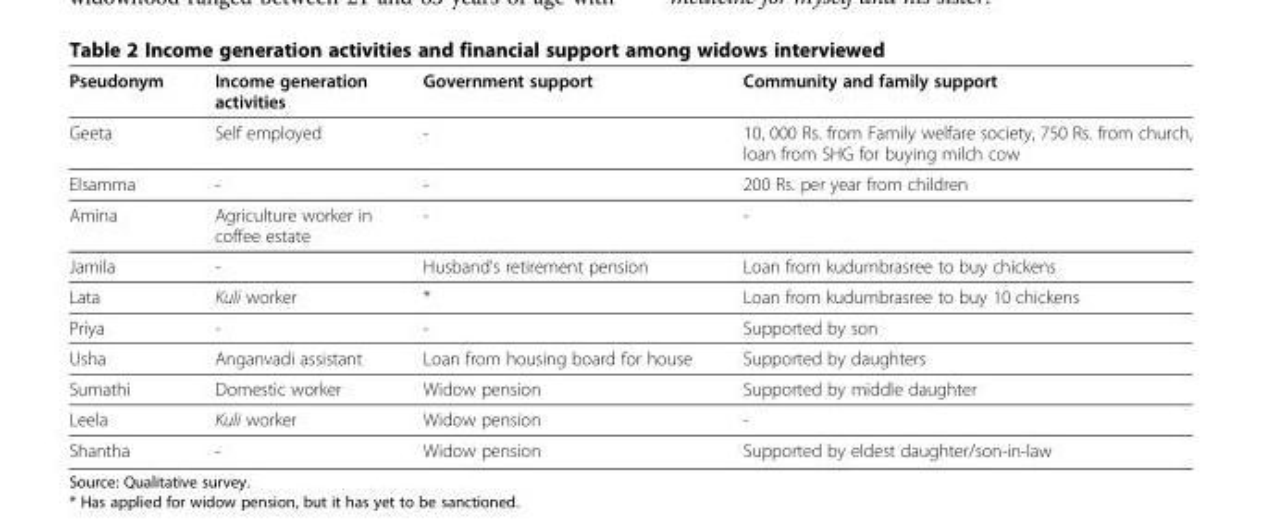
<table><thead><tr><td>Pseudonym</td><td>Income generation activities</td><td>Government support</td><td>Community and family support</td></tr></thead><tbody><tr><td>Geeta</td><td>Self employed</td><td>-</td><td>10, 000 Rs. from Family welfare society, 750 Rs. from church, loan from SHG for buying milch cow</td></tr><tr><td>Elsamma</td><td>-</td><td>-</td><td>200 Rs. per year from children</td></tr><tr><td>Amina</td><td>Agriculture worker in coffee estate</td><td>-</td><td>-</td></tr><tr><td>Jamila</td><td>-</td><td>Husband’s retirement pension</td><td>Loan from kudumbrasree to buy chickens</td></tr><tr><td>Lata</td><td>Kuli worker</td><td>*</td><td>Loan from kudumbrasree to buy 10 chickens</td></tr><tr><td>Priya</td><td>-</td><td>-</td><td>Supported by son</td></tr><tr><td>Usha</td><td>Anganvadi assistant</td><td>Loan from housing board for house</td><td>Supported by daughters</td></tr><tr><td>Sumathi</td><td>Domestic worker</td><td>Widow pension</td><td>Supported by middle daughter</td></tr><tr><td>Leela</td><td>Kuli worker</td><td>Widow pension</td><td>-</td></tr><tr><td>Shantha</td><td>-</td><td>Widow pension</td><td>Supported by eldest daughter/son-in-law</td></tr></tbody></table>